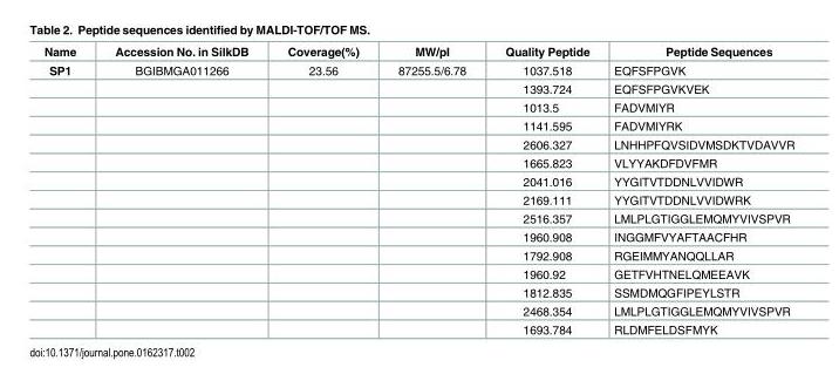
<table><thead><tr><td>Name</td><td>Accession No. in SilkDB</td><td>Coverage(%)</td><td>MW/pI</td><td>Quality Peptide</td><td>Peptide Sequences</td></tr></thead><tbody><tr><td rowspan="15">SP1</td><td>BGIBMGA011266</td><td>23.56</td><td>87255.5/6.78</td><td>1037.518</td><td>EQFSFPGVK</td></tr><tr><td></td><td></td><td></td><td>1393.724</td><td>EQFSFPGVKVEK</td></tr><tr><td></td><td></td><td></td><td>1013.5</td><td>FADVMIYR</td></tr><tr><td></td><td></td><td></td><td>1141.595</td><td>FADVMIYRK</td></tr><tr><td></td><td></td><td></td><td>2606.327</td><td>LNHHPFQVSIDVMSDKTVDAVVR</td></tr><tr><td></td><td></td><td></td><td>1665.823</td><td>VLYYAKDFDVFMR</td></tr><tr><td></td><td></td><td></td><td>2041.016</td><td>YYGITVTDDNLVVIDWR</td></tr><tr><td></td><td></td><td></td><td>2169.111</td><td>YYGITVTDDNLVVIDWRK</td></tr><tr><td></td><td></td><td></td><td>2516.357</td><td>LMLPLGTIGGLEMQMYVIVSPVR</td></tr><tr><td></td><td></td><td></td><td>1960.908</td><td>INGGMFVYAFTAACFHR</td></tr><tr><td></td><td></td><td></td><td>1792.908</td><td>RGEIMMYANQQLLAR</td></tr><tr><td></td><td></td><td></td><td>1960.92</td><td>GETFVHTNELQMEEAVK</td></tr><tr><td></td><td></td><td></td><td>1812.835</td><td>SSMDMQGFIPEYLSTR</td></tr><tr><td></td><td></td><td></td><td>2468.354</td><td>LMLPLGTIGGLEMQMYVIVSPVR</td></tr><tr><td></td><td></td><td></td><td>1693.784</td><td>RLDMFELDSFMYK</td></tr></tbody></table>